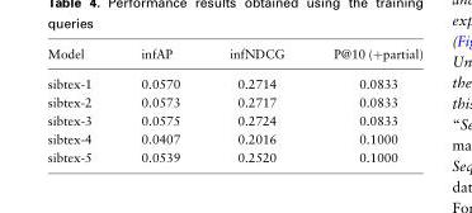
<table><thead><tr><td>Model</td><td>infAP</td><td>infNDCG</td><td>P@10 (+partial)</td></tr></thead><tbody><tr><td>sibtex-1</td><td>0.0570</td><td>0.2714</td><td>0.0833</td></tr><tr><td>sibtex-2</td><td>0.0573</td><td>0.2717</td><td>0.0833</td></tr><tr><td>sibtex-3</td><td>0.0575</td><td>0.2724</td><td>0.0833</td></tr><tr><td>sibtex-4</td><td>0.0407</td><td>0.2016</td><td>0.1000</td></tr><tr><td>sibtex-5</td><td>0.0539</td><td>0.2520</td><td>0.1000</td></tr></tbody></table>